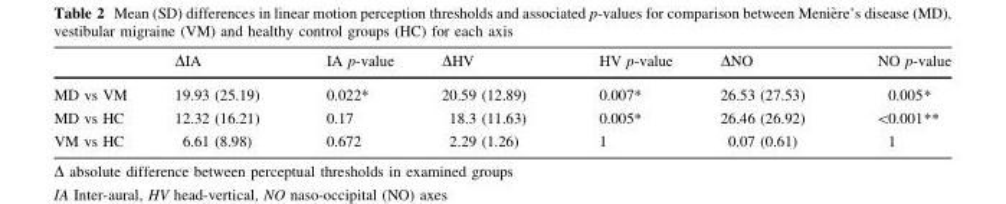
<table><thead><tr><td></td><td>ΔIA</td><td>IA p-value</td><td>ΔHV</td><td>HV p-value</td><td>ΔNO</td><td>NO p-value</td></tr></thead><tbody><tr><td>MD vs VM</td><td>19.93 (25.19)</td><td>0.022*</td><td>20.59 (12.89)</td><td>0.007*</td><td>26.53 (27.53)</td><td>0.005*</td></tr><tr><td>MD vs HC</td><td>12.32 (16.21)</td><td>0.17</td><td>18.3 (11.63)</td><td>0.005*</td><td>26.46 (26.92)</td><td>&lt;0.001**</td></tr><tr><td>VM vs HC</td><td>6.61 (8.98)</td><td>0.672</td><td>2.29 (1.26)</td><td>1</td><td>0.07 (0.61)</td><td>1</td></tr></tbody></table>